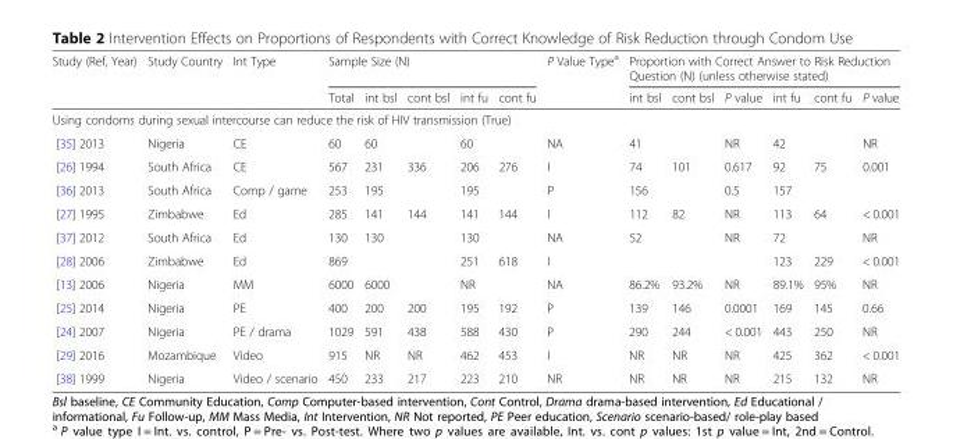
<table><thead><tr><td rowspan="2">Study (Ref, Year)</td><td rowspan="2">Study Country</td><td rowspan="2">Int Type</td><td colspan="5">Sample Size (N)</td><td rowspan="2">P Value Type<sup>a</sup></td><td colspan="6">Proportion with Correct Answer to Risk Reduction Question (N) (unless otherwise stated)</td></tr><tr><td>Total</td><td>int bsl</td><td>cont bsl</td><td>int fu</td><td>cont fu</td><td>int bsl</td><td>cont bsl</td><td>P value</td><td>int fu</td><td>cont fu</td><td>P value</td></tr></thead><tbody><tr><td colspan="15">Using condoms during sexual intercourse can reduce the risk of HIV transmission (True)</td></tr><tr><td>[35] 2013</td><td>Nigeria</td><td>CE</td><td>60</td><td>60</td><td></td><td>60</td><td></td><td>NA</td><td>41</td><td></td><td>NR</td><td>42</td><td></td><td>NR</td></tr><tr><td>[26] 1994</td><td>South Africa</td><td>CE</td><td>567</td><td>231</td><td>336</td><td>206</td><td>276</td><td>I</td><td>74</td><td>101</td><td>0.617</td><td>92</td><td>75</td><td>0.001</td></tr><tr><td>[36] 2013</td><td>South Africa</td><td>Comp / game</td><td>253</td><td>195</td><td></td><td>195</td><td></td><td>P</td><td>156</td><td></td><td>0.5</td><td>157</td><td></td><td></td></tr><tr><td>[27] 1995</td><td>Zimbabwe</td><td>Ed</td><td>285</td><td>141</td><td>144</td><td>141</td><td>144</td><td>I</td><td>112</td><td>82</td><td>NR</td><td>113</td><td>64</td><td>&lt; 0.001</td></tr><tr><td>[37] 2012</td><td>South Africa</td><td>Ed</td><td>130</td><td>130</td><td></td><td>130</td><td></td><td>NA</td><td>52</td><td></td><td>NR</td><td>72</td><td></td><td>NR</td></tr><tr><td>[28] 2006</td><td>Zimbabwe</td><td>Ed</td><td>869</td><td></td><td></td><td>251</td><td>618</td><td>I</td><td></td><td></td><td></td><td>123</td><td>229</td><td>&lt; 0.001</td></tr><tr><td>[13] 2006</td><td>Nigeria</td><td>MM</td><td>6000</td><td>6000</td><td></td><td>NR</td><td></td><td>NA</td><td>86.2%</td><td>93.2%</td><td>NR</td><td>89.1%</td><td>95%</td><td>NR</td></tr><tr><td>[25] 2014</td><td>Nigeria</td><td>PE</td><td>400</td><td>200</td><td>200</td><td>195</td><td>192</td><td>P</td><td>139</td><td>146</td><td>0.0001</td><td>169</td><td>145</td><td>0.66</td></tr><tr><td>[24] 2007</td><td>Nigeria</td><td>PE / drama</td><td>1029</td><td>591</td><td>438</td><td>588</td><td>430</td><td>P</td><td>290</td><td>244</td><td>&lt; 0.001</td><td>443</td><td>250</td><td>NR</td></tr><tr><td>[29] 2016</td><td>Mozambique</td><td>Video</td><td>915</td><td>NR</td><td>NR</td><td>462</td><td>453</td><td>I</td><td>NR</td><td>NR</td><td>NR</td><td>425</td><td>362</td><td>&lt; 0.001</td></tr><tr><td>[38] 1999</td><td>Nigeria</td><td>Video / scenario</td><td>450</td><td>233</td><td>217</td><td>223</td><td>210</td><td>NR</td><td>NR</td><td>NR</td><td>NR</td><td>215</td><td>132</td><td>NR</td></tr></tbody></table>